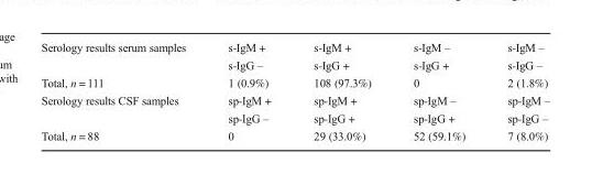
<table><tbody><tr><td>Serology results serum samples</td><td>s-IgM + s-IgG –</td><td>s-IgM + s-IgG +</td><td>s-IgM – s-IgG +</td><td>s-IgM – s-IgG –</td></tr><tr><td>Total, n = 111</td><td>1 (0.9%)</td><td>108 (97.3%)</td><td>0</td><td>2 (1.8%)</td></tr><tr><td>Serology results CSF samples</td><td>sp-IgM + sp-IgG –</td><td>sp-IgM + sp-IgG +</td><td>sp-IgM – sp-IgG +</td><td>sp-IgM – sp-IgG –</td></tr><tr><td>Total, n = 88</td><td>0</td><td>29 (33.0%)</td><td>52 (59.1%)</td><td>7 (8.0%)</td></tr></tbody></table>